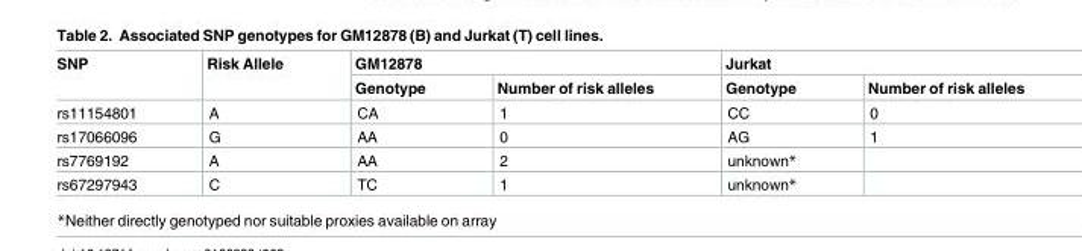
<table><thead><tr><td rowspan="2">SNP</td><td rowspan="2">Risk Allele</td><td colspan="2">GM12878</td><td colspan="2">Jurkat</td></tr><tr><td>Genotype</td><td>Number of risk alleles</td><td>Genotype</td><td>Number of risk alleles</td></tr></thead><tbody><tr><td>rs11154801</td><td>A</td><td>CA</td><td>1</td><td>CC</td><td>0</td></tr><tr><td>rs17066096</td><td>G</td><td>AA</td><td>0</td><td>AG</td><td>1</td></tr><tr><td>rs7769192</td><td>A</td><td>AA</td><td>2</td><td>unknown*</td><td></td></tr><tr><td>rs67297943</td><td>C</td><td>TC</td><td>1</td><td>unknown*</td><td></td></tr></tbody></table>